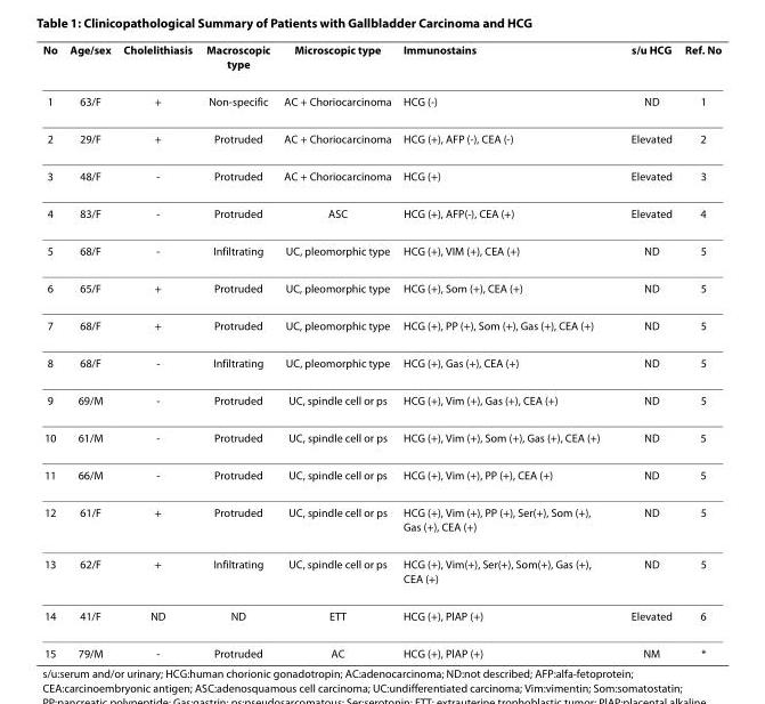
<table><thead><tr><td>No</td><td>Age/sex</td><td>Cholelithiasis</td><td>Macroscopic type</td><td>Microscopic type</td><td>Immunostains</td><td>s/u HCG</td><td>Ref. No</td></tr></thead><tbody><tr><td>1</td><td>63/F</td><td>+</td><td>Non-specific</td><td>AC + Choriocarcinoma</td><td>HCG (-)</td><td>ND</td><td>1</td></tr><tr><td>2</td><td>29/F</td><td>+</td><td>Protruded</td><td>AC + Choriocarcinoma</td><td>HCG (+), AFP (-), CEA (-)</td><td>Elevated</td><td>2</td></tr><tr><td>3</td><td>48/F</td><td>-</td><td>Protruded</td><td>AC + Choriocarcinoma</td><td>HCG (+)</td><td>Elevated</td><td>3</td></tr><tr><td>4</td><td>83/F</td><td>-</td><td>Protruded</td><td>ASC</td><td>HCG (+), AFP(-), CEA (+)</td><td>Elevated</td><td>4</td></tr><tr><td>5</td><td>68/F</td><td>-</td><td>Infiltrating</td><td>UC, pleomorphic type</td><td>HCG (+), VIM (+), CEA (+)</td><td>ND</td><td>5</td></tr><tr><td>6</td><td>65/F</td><td>+</td><td>Protruded</td><td>UC, pleomorphic type</td><td>HCG (+), Som (+), CEA (+)</td><td>ND</td><td>5</td></tr><tr><td>7</td><td>68/F</td><td>+</td><td>Protruded</td><td>UC, pleomorphic type</td><td>HCG (+), PP (+), Som (+), Gas (+), CEA (+)</td><td>ND</td><td>5</td></tr><tr><td>8</td><td>68/F</td><td>-</td><td>Infiltrating</td><td>UC, pleomorphic type</td><td>HCG (+), Gas (+), CEA (+)</td><td>ND</td><td>5</td></tr><tr><td>9</td><td>69/M</td><td>-</td><td>Protruded</td><td>UC, spindle cell or ps</td><td>HCG (+), Vim (+), Gas (+), CEA (+)</td><td>ND</td><td>5</td></tr><tr><td>10</td><td>61/M</td><td>-</td><td>Protruded</td><td>UC, spindle cell or ps</td><td>HCG (+), Vim (+), Som (+), Gas (+), CEA (+)</td><td>ND</td><td>5</td></tr><tr><td>11</td><td>66/M</td><td>-</td><td>Protruded</td><td>UC, spindle cell or ps</td><td>HCG (+), Vim (+), PP (+), CEA (+)</td><td>ND</td><td>5</td></tr><tr><td>12</td><td>61/F</td><td>+</td><td>Protruded</td><td>UC, spindle cell or ps</td><td>HCG (+), Vim (+), PP (+), Ser(+), Som (+), Gas (+), CEA (+)</td><td>ND</td><td>5</td></tr><tr><td>13</td><td>62/F</td><td>+</td><td>Infiltrating</td><td>UC, spindle cell or ps</td><td>HCG (+), Vim(+), Ser(+), Som(+), Gas (+), CEA (+)</td><td>ND</td><td>5</td></tr><tr><td>14</td><td>41/F</td><td>ND</td><td>ND</td><td>ETT</td><td>HCG (+), PlAP (+)</td><td>Elevated</td><td>6</td></tr><tr><td>15</td><td>79/M</td><td>-</td><td>Protruded</td><td>AC</td><td>HCG (+), PlAP (+)</td><td>NM</td><td>*</td></tr></tbody></table>